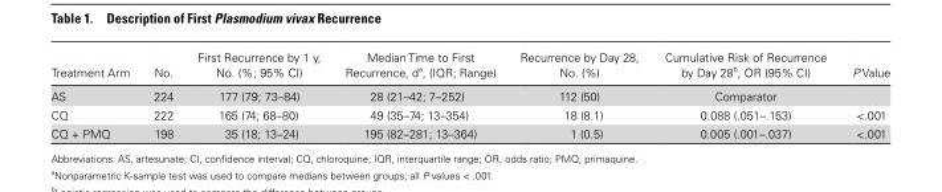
<table><thead><tr><td>Treatment Arm</td><td>No.</td><td>First Recurrence by 1 y, No. (%; 95% CI)</td><td>Median Time to First Recurrence, d<sup>a</sup>, (IQR; Range)</td><td>Recurrence by Day 28, No. (%)</td><td>Cumulative Risk of Recurrence by Day 28<sup>b</sup>, OR (95% CI)</td><td>P Value</td></tr></thead><tbody><tr><td>AS</td><td>224</td><td>177 (79; 73–84)</td><td>28 (21–42; 7–252)</td><td>112 (50)</td><td>Comparator</td><td></td></tr><tr><td>CQ</td><td>222</td><td>165 (74; 68–80)</td><td>49 (35–74; 13–354)</td><td>18 (8.1)</td><td>0.088 (.051–.153)</td><td>&lt;.001</td></tr><tr><td>CQ + PMQ</td><td>198</td><td>35 (18; 13–24)</td><td>195 (82–281; 13–364)</td><td>1 (0.5)</td><td>0.005 (.001–.037)</td><td>&lt;.001</td></tr></tbody></table>